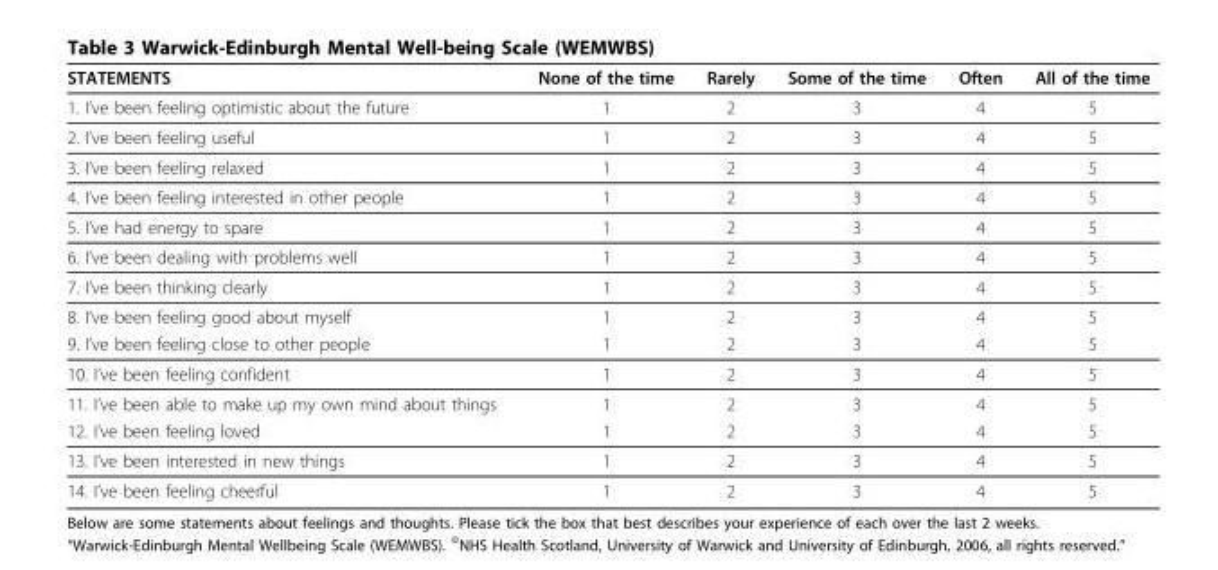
<table><thead><tr><td>STATEMENTS</td><td>None of the time</td><td>Rarely</td><td>Some of the time</td><td>Often</td><td>All of the time</td></tr></thead><tbody><tr><td>1. I’ve been feeling optimistic about the future</td><td>1</td><td>2</td><td>3</td><td>4</td><td>5</td></tr><tr><td>2. I’ve been feeling useful</td><td>1</td><td>2</td><td>3</td><td>4</td><td>5</td></tr><tr><td>3. I’ve been feeling relaxed</td><td>1</td><td>2</td><td>3</td><td>4</td><td>5</td></tr><tr><td>4. I’ve been feeling interested in other people</td><td>1</td><td>2</td><td>3</td><td>4</td><td>5</td></tr><tr><td>5. I’ve had energy to spare</td><td>1</td><td>2</td><td>3</td><td>4</td><td>5</td></tr><tr><td>6. I’ve been dealing with problems well</td><td>1</td><td>2</td><td>3</td><td>4</td><td>5</td></tr><tr><td>7. I’ve been thinking clearly</td><td>1</td><td>2</td><td>3</td><td>4</td><td>5</td></tr><tr><td>8. I’ve been feeling good about myself</td><td>1</td><td>2</td><td>3</td><td>4</td><td>5</td></tr><tr><td>9. I’ve been feeling close to other people</td><td>1</td><td>2</td><td>3</td><td>4</td><td>5</td></tr><tr><td>10. I’ve been feeling confident</td><td>1</td><td>2</td><td>3</td><td>4</td><td>5</td></tr><tr><td>11. I’ve been able to make up my own mind about things</td><td>1</td><td>2</td><td>3</td><td>4</td><td>5</td></tr><tr><td>12. I’ve been feeling loved</td><td>1</td><td>2</td><td>3</td><td>4</td><td>5</td></tr><tr><td>13. I’ve been interested in new things</td><td>1</td><td>2</td><td>3</td><td>4</td><td>5</td></tr><tr><td>14. I’ve been feeling cheerful</td><td>1</td><td>2</td><td>3</td><td>4</td><td>5</td></tr></tbody></table>